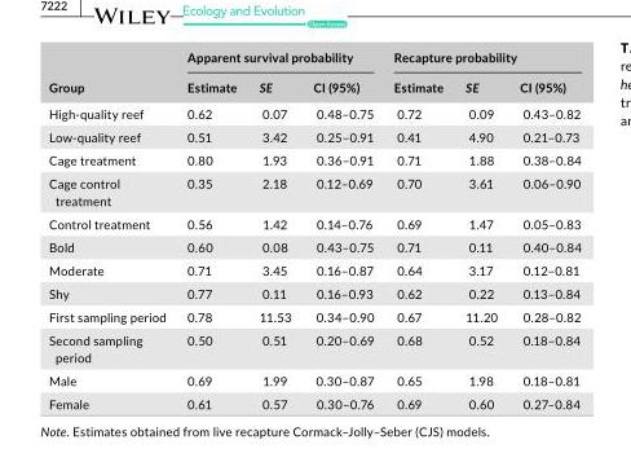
<table><thead><tr><td rowspan="2">Group</td><td colspan="3">Apparent survival probability</td><td colspan="3">Recapture probability</td></tr><tr><td>Estimate</td><td>SE</td><td>CI (95%)</td><td>Estimate</td><td>SE</td><td>CI (95%)</td></tr></thead><tbody><tr><td>High- quality reef</td><td>0.62</td><td>0.07</td><td>0.48–0.75</td><td>0.72</td><td>0.09</td><td>0.43–0.82</td></tr><tr><td>Low- quality reef</td><td>0.51</td><td>3.42</td><td>0.25–0.91</td><td>0.41</td><td>4.90</td><td>0.21–0.73</td></tr><tr><td>Cage treatment</td><td>0.80</td><td>1.93</td><td>0.36–0.91</td><td>0.71</td><td>1.88</td><td>0.38–0.84</td></tr><tr><td>Cage control treatment</td><td>0.35</td><td>2.18</td><td>0.12–0.69</td><td>0.70</td><td>3.61</td><td>0.06–0.90</td></tr><tr><td>Control treatment</td><td>0.56</td><td>1.42</td><td>0.14–0.76</td><td>0.69</td><td>1.47</td><td>0.05–0.83</td></tr><tr><td>Bold</td><td>0.60</td><td>0.08</td><td>0.43–0.75</td><td>0.71</td><td>0.11</td><td>0.40–0.84</td></tr><tr><td>Moderate</td><td>0.71</td><td>3.45</td><td>0.16–0.87</td><td>0.64</td><td>3.17</td><td>0.12–0.81</td></tr><tr><td>Shy</td><td>0.77</td><td>0.11</td><td>0.16–0.93</td><td>0.62</td><td>0.22</td><td>0.13–0.84</td></tr><tr><td>First sampling period</td><td>0.78</td><td>11.53</td><td>0.34–0.90</td><td>0.67</td><td>11.20</td><td>0.28–0.82</td></tr><tr><td>Second sampling period</td><td>0.50</td><td>0.51</td><td>0.20–0.69</td><td>0.68</td><td>0.52</td><td>0.18–0.84</td></tr><tr><td>Male</td><td>0.69</td><td>1.99</td><td>0.30–0.87</td><td>0.65</td><td>1.98</td><td>0.18–0.81</td></tr><tr><td>Female</td><td>0.61</td><td>0.57</td><td>0.30–0.76</td><td>0.69</td><td>0.60</td><td>0.27–0.84</td></tr></tbody></table>